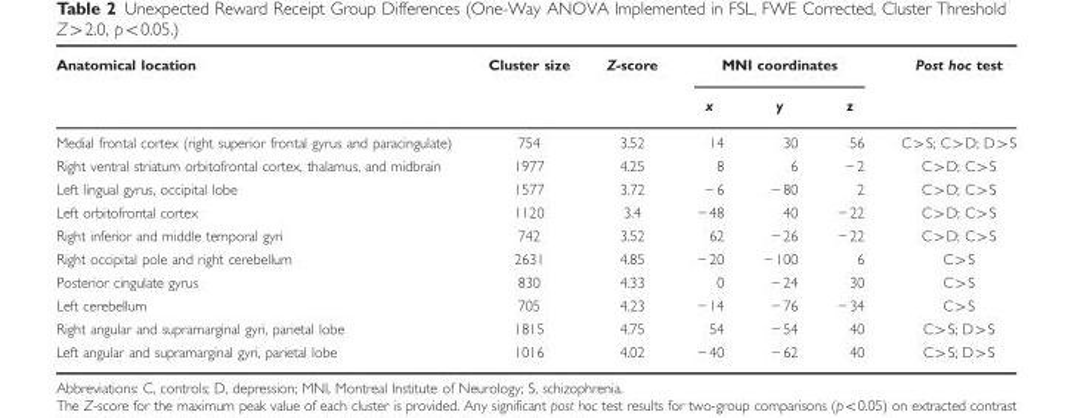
<table><thead><tr><td rowspan="2">Anatomical location</td><td rowspan="2">Cluster size</td><td rowspan="2">Z-score</td><td colspan="3">MNI coordinates</td><td rowspan="2">Post hoc test</td></tr><tr><td>x</td><td>y</td><td>z</td></tr></thead><tbody><tr><td>Medial frontal cortex (right superior frontal gyrus and paracingulate)</td><td>754</td><td>3.52</td><td>14</td><td>30</td><td>56</td><td>C&gt;S; C&gt;D; D&gt;S</td></tr><tr><td>Right ventral striatum orbitofrontal cortex, thalamus, and midbrain</td><td>1977</td><td>4.25</td><td>8</td><td>6</td><td>− 2</td><td>C&gt;D; C&gt;S</td></tr><tr><td>Left lingual gyrus, occipital lobe</td><td>1577</td><td>3.72</td><td>− 6</td><td>− 80</td><td>2</td><td>C&gt;D; C&gt;S</td></tr><tr><td>Left orbitofrontal cortex</td><td>1120</td><td>3.4</td><td>− 48</td><td>40</td><td>− 22</td><td>C&gt;D; C&gt;S</td></tr><tr><td>Right inferior and middle temporal gyri</td><td>742</td><td>3.52</td><td>62</td><td>− 26</td><td>− 22</td><td>C&gt;D; C&gt;S</td></tr><tr><td>Right occipital pole and right cerebellum</td><td>2631</td><td>4.85</td><td>− 20</td><td>− 100</td><td>6</td><td>C&gt;S</td></tr><tr><td>Posterior cingulate gyrus</td><td>830</td><td>4.33</td><td>0</td><td>− 24</td><td>30</td><td>C&gt;S</td></tr><tr><td>Left cerebellum</td><td>705</td><td>4.23</td><td>− 14</td><td>− 76</td><td>− 34</td><td>C&gt;S</td></tr><tr><td>Right angular and supramarginal gyri, parietal lobe</td><td>1815</td><td>4.75</td><td>54</td><td>− 54</td><td>40</td><td>C&gt;S; D&gt;S</td></tr><tr><td>Left angular and supramarginal gyri, parietal lobe</td><td>1016</td><td>4.02</td><td>− 40</td><td>− 62</td><td>40</td><td>C&gt;S; D&gt;S</td></tr></tbody></table>